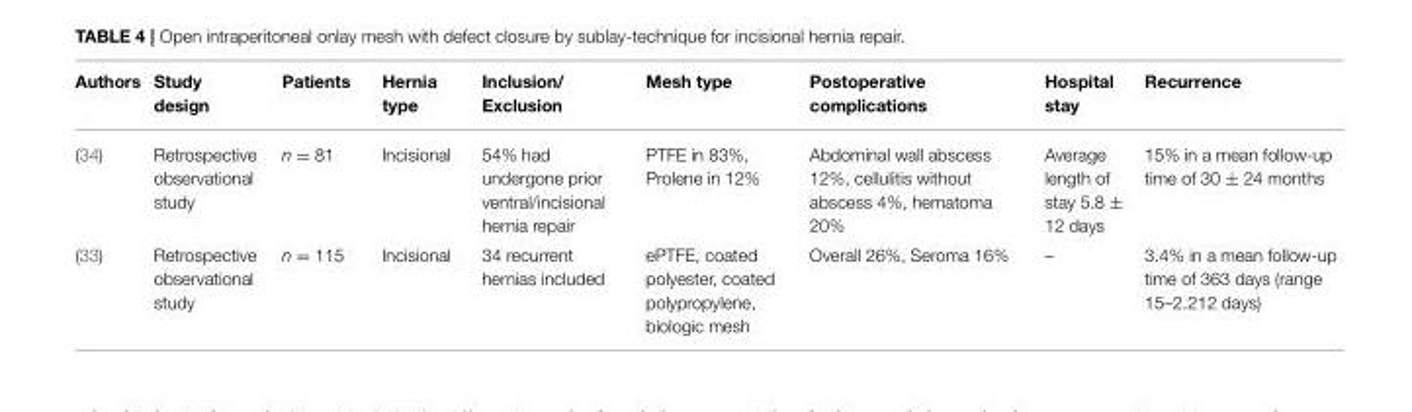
<table><thead><tr><td>Authors</td><td>Study design</td><td>Patients</td><td>Hernia type</td><td>Inclusion/ Exclusion</td><td>Mesh type</td><td>Postoperative complications</td><td>Hospital stay</td><td>Recurrence</td></tr></thead><tbody><tr><td>(34)</td><td>Retrospective observational study</td><td>n = 81</td><td>Incisional</td><td>54% had undergone prior ventral/incisional hernia repair</td><td>PTFE in 83%, Prolene in 12%</td><td>Abdominal wall abscess 12%, cellulitis without abscess 4%, hematoma 20%</td><td>Average length of stay 5.8 ± 12 days</td><td>15% in a mean follow-up time of 30 ± 24 months</td></tr><tr><td>(33)</td><td>Retrospective observational study</td><td>n = 115</td><td>Incisional</td><td>34 recurrent hernias included</td><td>ePTFE, coated polyester, coated polypropylene, biologic mesh</td><td>Overall 26%, Seroma 16%</td><td>–</td><td>3.4% in a mean follow-up time of 363 days (range 15–2.212 days)</td></tr></tbody></table>